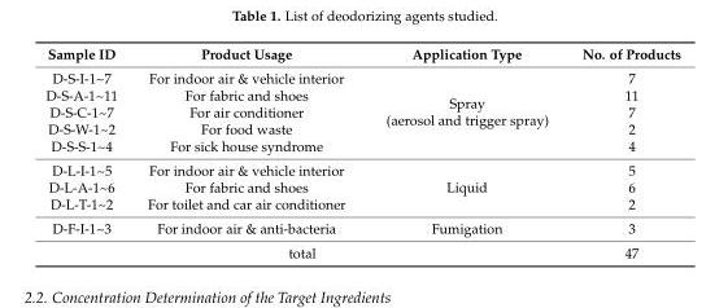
<table><thead><tr><td>Sample ID</td><td>Product Usage</td><td>Application Type</td><td>No. of Products</td></tr></thead><tbody><tr><td>D-S-I-1~7</td><td>For indoor air &amp; vehicle interior</td><td rowspan="5">Spray (aerosol and trigger spray)</td><td>7</td></tr><tr><td>D-S-A-1~11</td><td>For fabric and shoes</td><td>11</td></tr><tr><td>D-S-C-1~7</td><td>For air conditioner</td><td>7</td></tr><tr><td>D-S-W-1~2</td><td>For food waste</td><td>2</td></tr><tr><td>D-S-S-1~4</td><td>For sick house syndrome</td><td>4</td></tr><tr><td>D-L-I-1~5</td><td>For indoor air &amp; vehicle interior</td><td rowspan="3">Liquid</td><td>5</td></tr><tr><td>D-L-A-1~6</td><td>For fabric and shoes</td><td>6</td></tr><tr><td>D-L-T-1~2</td><td>For toilet and car air conditioner</td><td>2</td></tr><tr><td>D-F-I-1~3</td><td>For indoor air &amp; anti-bacteria</td><td>Fumigation</td><td>3</td></tr><tr><td colspan="3">total</td><td>47</td></tr></tbody></table>